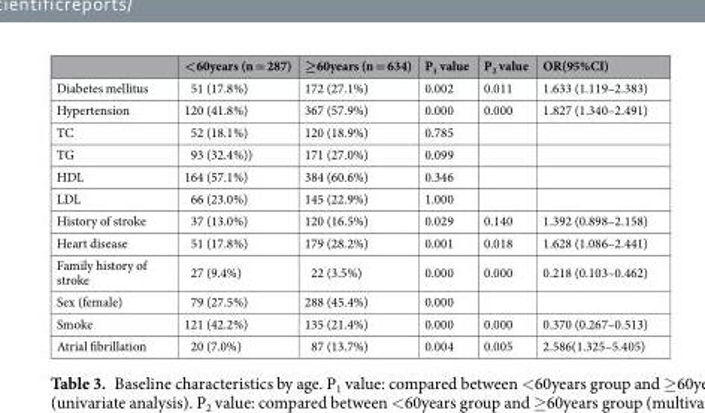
<table><thead><tr><td></td><td>&lt;60years (n = 287)</td><td>≥60years (n = 634)</td><td>P<sub>1</sub> value</td><td>P<sub>2</sub> value</td><td>OR(95%CI)</td></tr></thead><tbody><tr><td>Diabetes mellitus</td><td>51 (17.8%)</td><td>172 (27.1%)</td><td>0.002</td><td>0.011</td><td>1.633 (1.119–2.383)</td></tr><tr><td>Hypertension</td><td>120 (41.8%)</td><td>367 (57.9%)</td><td>0.000</td><td>0.000</td><td>1.827 (1.340–2.491)</td></tr><tr><td>TC</td><td>52 (18.1%)</td><td>120 (18.9%)</td><td>0.785</td><td></td><td></td></tr><tr><td>TG</td><td>93 (32.4%))</td><td>171 (27.0%)</td><td>0.099</td><td></td><td></td></tr><tr><td>HDL</td><td>164 (57.1%)</td><td>384 (60.6%)</td><td>0.346</td><td></td><td></td></tr><tr><td>LDL</td><td>66 (23.0%)</td><td>145 (22.9%)</td><td>1.000</td><td></td><td></td></tr><tr><td>History of stroke</td><td>37 (13.0%)</td><td>120 (16.5%)</td><td>0.029</td><td>0.140</td><td>1.392 (0.898–2.158)</td></tr><tr><td>Heart disease</td><td>51 (17.8%)</td><td>179 (28.2%)</td><td>0.001</td><td>0.018</td><td>1.628 (1.086–2.441)</td></tr><tr><td>Family history of stroke</td><td>27 (9.4%)</td><td>22 (3.5%)</td><td>0.000</td><td>0.000</td><td>0.218 (0.103–0.462)</td></tr><tr><td>Sex (female)</td><td>79 (27.5%)</td><td>288 (45.4%)</td><td>0.000</td><td></td><td></td></tr><tr><td>Smoke</td><td>121 (42.2%)</td><td>135 (21.4%)</td><td>0.000</td><td>0.000</td><td>0.370 (0.267–0.513)</td></tr><tr><td>Atrial fibrillation</td><td>20 (7.0%)</td><td>87 (13.7%)</td><td>0.004</td><td>0.005</td><td>2.586(1.325–5.405)</td></tr></tbody></table>